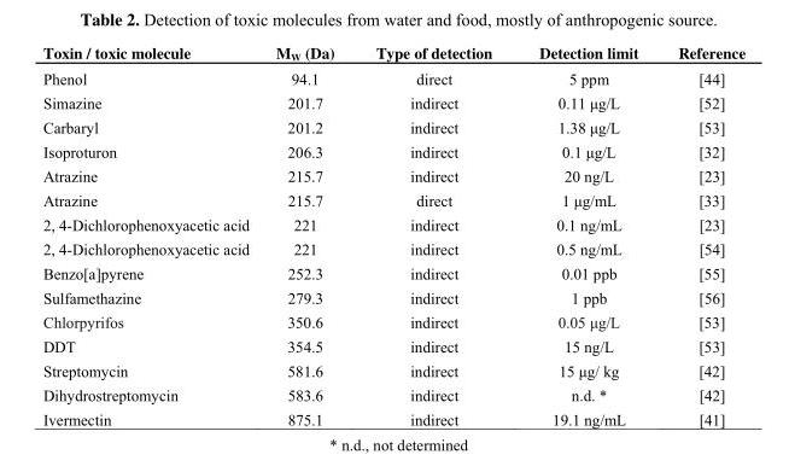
<table><thead><tr><td>Toxin / toxic molecule</td><td>M<sub>W</sub> (Da)</td><td>Type of detection</td><td>Detection limit</td><td>Reference</td></tr></thead><tbody><tr><td>Phenol</td><td>94.1</td><td>direct</td><td>5 ppm</td><td>[44]</td></tr><tr><td>Simazine</td><td>201.7</td><td>indirect</td><td>0.11 μg/L</td><td>[52]</td></tr><tr><td>Carbaryl</td><td>201.2</td><td>indirect</td><td>1.38 μg/L</td><td>[53]</td></tr><tr><td>Isoproturon</td><td>206.3</td><td>indirect</td><td>0.1 μg/L</td><td>[32]</td></tr><tr><td>Atrazine</td><td>215.7</td><td>indirect</td><td>20 ng/L</td><td>[23]</td></tr><tr><td>Atrazine</td><td>215.7</td><td>direct</td><td>1 μg/mL</td><td>[33]</td></tr><tr><td>2, 4-Dichlorophenoxyacetic acid</td><td>221</td><td>indirect</td><td>0.1 ng/mL</td><td>[23]</td></tr><tr><td>2, 4-Dichlorophenoxyacetic acid</td><td>221</td><td>indirect</td><td>0.5 ng/mL</td><td>[54]</td></tr><tr><td>Benzo[a]pyrene</td><td>252.3</td><td>indirect</td><td>0.01 ppb</td><td>[55]</td></tr><tr><td>Sulfamethazine</td><td>279.3</td><td>indirect</td><td>1 ppb</td><td>[56]</td></tr><tr><td>Chlorpyrifos</td><td>350.6</td><td>indirect</td><td>0.05 μg/L</td><td>[53]</td></tr><tr><td>DDT</td><td>354.5</td><td>indirect</td><td>15 ng/L</td><td>[53]</td></tr><tr><td>Streptomycin</td><td>581.6</td><td>indirect</td><td>15 μg/ kg</td><td>[42]</td></tr><tr><td>Dihydrostreptomycin</td><td>583.6</td><td>indirect</td><td>n.d. *</td><td>[42]</td></tr><tr><td>Ivermectin</td><td>875.1</td><td>indirect</td><td>19.1 ng/mL</td><td>[41]</td></tr></tbody></table>